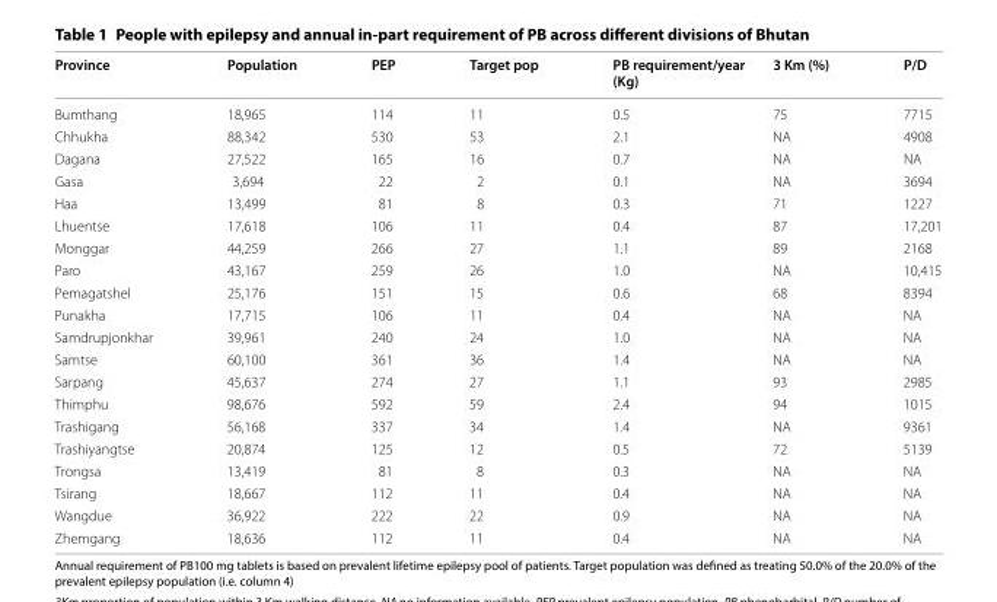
<table><thead><tr><td>Province</td><td>Population</td><td>PEP</td><td>Target pop</td><td>PB requirement/year (Kg)</td><td>3 Km (%)</td><td>P/D</td></tr></thead><tbody><tr><td>Bumthang</td><td>18,965</td><td>114</td><td>11</td><td>0.5</td><td>75</td><td>7715</td></tr><tr><td>Chhukha</td><td>88,342</td><td>530</td><td>53</td><td>2.1</td><td>NA</td><td>4908</td></tr><tr><td>Dagana</td><td>27,522</td><td>165</td><td>16</td><td>0.7</td><td>NA</td><td>NA</td></tr><tr><td>Gasa</td><td>3,694</td><td>22</td><td>2</td><td>0.1</td><td>NA</td><td>3694</td></tr><tr><td>Haa</td><td>13,499</td><td>81</td><td>8</td><td>0.3</td><td>71</td><td>1227</td></tr><tr><td>Lhuentse</td><td>17,618</td><td>106</td><td>11</td><td>0.4</td><td>87</td><td>17,201</td></tr><tr><td>Monggar</td><td>44,259</td><td>266</td><td>27</td><td>1.1</td><td>89</td><td>2168</td></tr><tr><td>Paro</td><td>43,167</td><td>259</td><td>26</td><td>1.0</td><td>NA</td><td>10,415</td></tr><tr><td>Pemagatshel</td><td>25,176</td><td>151</td><td>15</td><td>0.6</td><td>68</td><td>8394</td></tr><tr><td>Punakha</td><td>17,715</td><td>106</td><td>11</td><td>0.4</td><td>NA</td><td>NA</td></tr><tr><td>Samdrupjonkhar</td><td>39,961</td><td>240</td><td>24</td><td>1.0</td><td>NA</td><td>NA</td></tr><tr><td>Samtse</td><td>60,100</td><td>361</td><td>36</td><td>1.4</td><td>NA</td><td>NA</td></tr><tr><td>Sarpang</td><td>45,637</td><td>274</td><td>27</td><td>1.1</td><td>93</td><td>2985</td></tr><tr><td>Thimphu</td><td>98,676</td><td>592</td><td>59</td><td>2.4</td><td>94</td><td>1015</td></tr><tr><td>Trashigang</td><td>56,168</td><td>337</td><td>34</td><td>1.4</td><td>NA</td><td>9361</td></tr><tr><td>Trashiyangtse</td><td>20,874</td><td>125</td><td>12</td><td>0.5</td><td>72</td><td>5139</td></tr><tr><td>Trongsa</td><td>13,419</td><td>81</td><td>8</td><td>0.3</td><td>NA</td><td>NA</td></tr><tr><td>Tsirang</td><td>18,667</td><td>112</td><td>11</td><td>0.4</td><td>NA</td><td>NA</td></tr><tr><td>Wangdue</td><td>36,922</td><td>222</td><td>22</td><td>0.9</td><td>NA</td><td>NA</td></tr><tr><td>Zhemgang</td><td>18,636</td><td>112</td><td>11</td><td>0.4</td><td>NA</td><td>NA</td></tr></tbody></table>